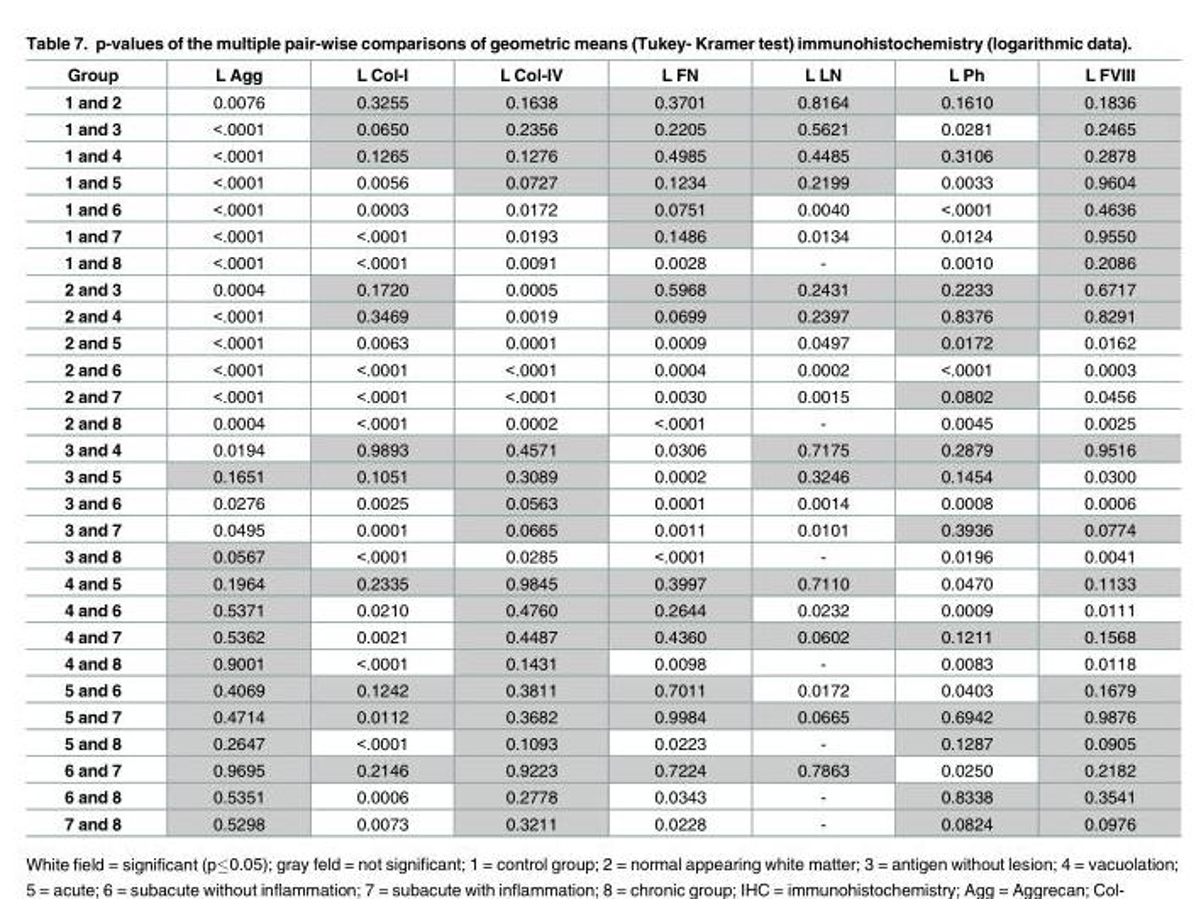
<table><thead><tr><td>Group</td><td>L Agg</td><td>L Col-I</td><td>L Col-IV</td><td>L FN</td><td>L LN</td><td>L Ph</td><td>L FVIII</td></tr></thead><tbody><tr><td>1 and 2</td><td>0.0076</td><td>0.3255</td><td>0.1638</td><td>0.3701</td><td>0.8164</td><td>0.1610</td><td>0.1836</td></tr><tr><td>1 and 3</td><td>&lt;.0001</td><td>0.0650</td><td>0.2356</td><td>0.2205</td><td>0.5621</td><td>0.0281</td><td>0.2465</td></tr><tr><td>1 and 4</td><td>&lt;.0001</td><td>0.1265</td><td>0.1276</td><td>0.4985</td><td>0.4485</td><td>0.3106</td><td>0.2878</td></tr><tr><td>1 and 5</td><td>&lt;.0001</td><td>0.0056</td><td>0.0727</td><td>0.1234</td><td>0.2199</td><td>0.0033</td><td>0.9604</td></tr><tr><td>1 and 6</td><td>&lt;.0001</td><td>0.0003</td><td>0.0172</td><td>0.0751</td><td>0.0040</td><td>&lt;.0001</td><td>0.4636</td></tr><tr><td>1 and 7</td><td>&lt;.0001</td><td>&lt;.0001</td><td>0.0193</td><td>0.1486</td><td>0.0134</td><td>0.0124</td><td>0.9550</td></tr><tr><td>1 and 8</td><td>&lt;.0001</td><td>&lt;.0001</td><td>0.0091</td><td>0.0028</td><td>-</td><td>0.0010</td><td>0.2086</td></tr><tr><td>2 and 3</td><td>0.0004</td><td>0.1720</td><td>0.0005</td><td>0.5968</td><td>0.2431</td><td>0.2233</td><td>0.6717</td></tr><tr><td>2 and 4</td><td>&lt;.0001</td><td>0.3469</td><td>0.0019</td><td>0.0699</td><td>0.2397</td><td>0.8376</td><td>0.8291</td></tr><tr><td>2 and 5</td><td>&lt;.0001</td><td>0.0063</td><td>0.0001</td><td>0.0009</td><td>0.0497</td><td>0.0172</td><td>0.0162</td></tr><tr><td>2 and 6</td><td>&lt;.0001</td><td>&lt;.0001</td><td>&lt;.0001</td><td>0.0004</td><td>0.0002</td><td>&lt;.0001</td><td>0.0003</td></tr><tr><td>2 and 7</td><td>&lt;.0001</td><td>&lt;.0001</td><td>&lt;.0001</td><td>0.0030</td><td>0.0015</td><td>0.0802</td><td>0.0456</td></tr><tr><td>2 and 8</td><td>0.0004</td><td>&lt;.0001</td><td>0.0002</td><td>&lt;.0001</td><td>-</td><td>0.0045</td><td>0.0025</td></tr><tr><td>3 and 4</td><td>0.0194</td><td>0.9893</td><td>0.4571</td><td>0.0306</td><td>0.7175</td><td>0.2879</td><td>0.9516</td></tr><tr><td>3 and 5</td><td>0.1651</td><td>0.1051</td><td>0.3089</td><td>0.0002</td><td>0.3246</td><td>0.1454</td><td>0.0300</td></tr><tr><td>3 and 6</td><td>0.0276</td><td>0.0025</td><td>0.0563</td><td>0.0001</td><td>0.0014</td><td>0.0008</td><td>0.0006</td></tr><tr><td>3 and 7</td><td>0.0495</td><td>0.0001</td><td>0.0665</td><td>0.0011</td><td>0.0101</td><td>0.3936</td><td>0.0774</td></tr><tr><td>3 and 8</td><td>0.0567</td><td>&lt;.0001</td><td>0.0285</td><td>&lt;.0001</td><td>-</td><td>0.0196</td><td>0.0041</td></tr><tr><td>4 and 5</td><td>0.1964</td><td>0.2335</td><td>0.9845</td><td>0.3997</td><td>0.7110</td><td>0.0470</td><td>0.1133</td></tr><tr><td>4 and 6</td><td>0.5371</td><td>0.0210</td><td>0.4760</td><td>0.2644</td><td>0.0232</td><td>0.0009</td><td>0.0111</td></tr><tr><td>4 and 7</td><td>0.5362</td><td>0.0021</td><td>0.4487</td><td>0.4360</td><td>0.0602</td><td>0.1211</td><td>0.1568</td></tr><tr><td>4 and 8</td><td>0.9001</td><td>&lt;.0001</td><td>0.1431</td><td>0.0098</td><td>-</td><td>0.0083</td><td>0.0118</td></tr><tr><td>5 and 6</td><td>0.4069</td><td>0.1242</td><td>0.3811</td><td>0.7011</td><td>0.0172</td><td>0.0403</td><td>0.1679</td></tr><tr><td>5 and 7</td><td>0.4714</td><td>0.0112</td><td>0.3682</td><td>0.9984</td><td>0.0665</td><td>0.6942</td><td>0.9876</td></tr><tr><td>5 and 8</td><td>0.2647</td><td>&lt;.0001</td><td>0.1093</td><td>0.0223</td><td>-</td><td>0.1287</td><td>0.0905</td></tr><tr><td>6 and 7</td><td>0.9695</td><td>0.2146</td><td>0.9223</td><td>0.7224</td><td>0.7863</td><td>0.0250</td><td>0.2182</td></tr><tr><td>6 and 8</td><td>0.5351</td><td>0.0006</td><td>0.2778</td><td>0.0343</td><td>-</td><td>0.8338</td><td>0.3541</td></tr><tr><td>7 and 8</td><td>0.5298</td><td>0.0073</td><td>0.3211</td><td>0.0228</td><td>-</td><td>0.0824</td><td>0.0976</td></tr></tbody></table>